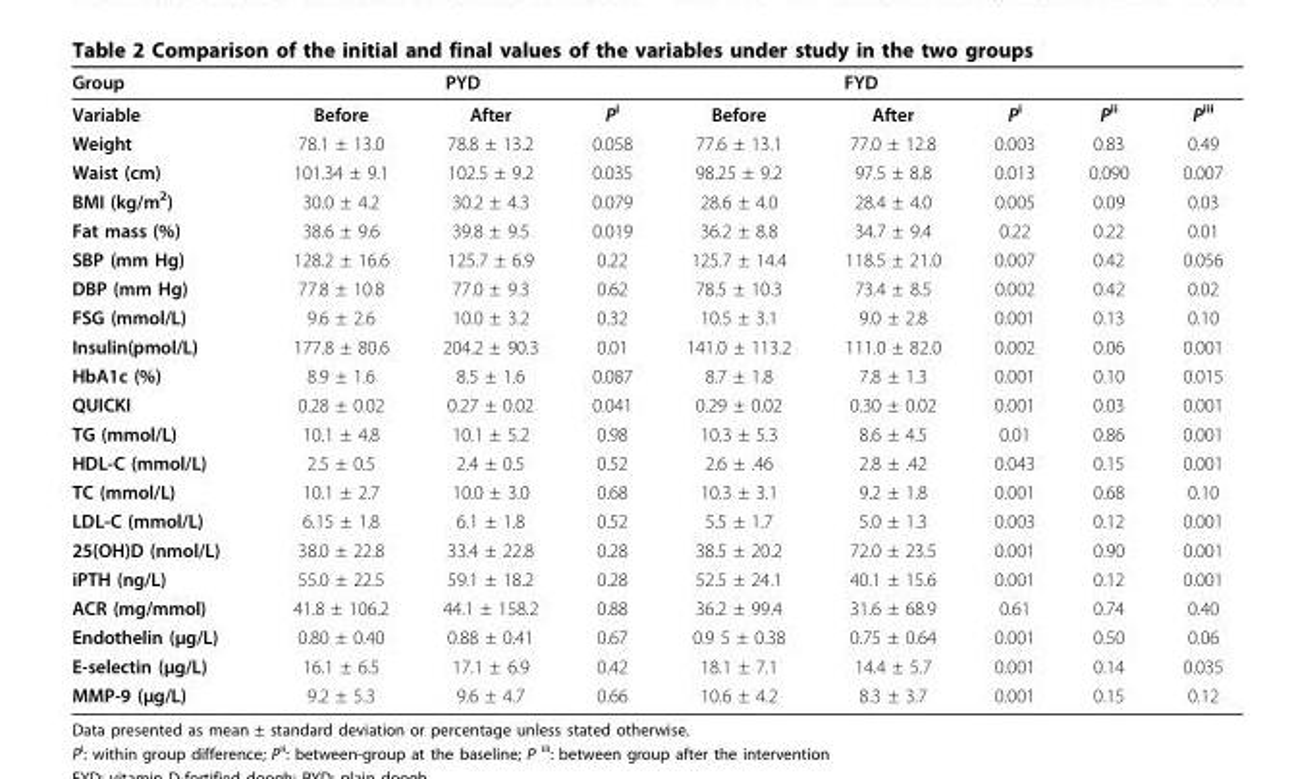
<table><thead><tr><td rowspan="2">Group Variable</td><td colspan="3">PYD</td><td colspan="3">FYD</td><td rowspan="2">P<sup>ii</sup></td><td rowspan="2">P<sup>iii</sup></td></tr><tr><td>Before</td><td>After</td><td>P<sup>i</sup></td><td>Before</td><td>After</td><td>P<sup>i</sup></td></tr></thead><tbody><tr><td>Weight</td><td>78.1 ± 13.0</td><td>78.8 ± 13.2</td><td>0.058</td><td>77.6 ± 13.1</td><td>77.0 ± 12.8</td><td>0.003</td><td>0.83</td><td>0.49</td></tr><tr><td>Waist (cm)</td><td>101.34 ± 9.1</td><td>102.5 ± 9.2</td><td>0.035</td><td>98.25 ± 9.2</td><td>97.5 ± 8.8</td><td>0.013</td><td>0.090</td><td>0.007</td></tr><tr><td>BMI (kg/m<sup>2</sup>)</td><td>30.0 ± 4.2</td><td>30.2 ± 4.3</td><td>0.079</td><td>28.6 ± 4.0</td><td>28.4 ± 4.0</td><td>0.005</td><td>0.09</td><td>0.03</td></tr><tr><td>Fat mass (%)</td><td>38.6 ± 9.6</td><td>39.8 ± 9.5</td><td>0.019</td><td>36.2 ± 8.8</td><td>34.7 ± 9.4</td><td>0.22</td><td>0.22</td><td>0.01</td></tr><tr><td>SBP (mm Hg)</td><td>128.2 ± 16.6</td><td>125.7 ± 6.9</td><td>0.22</td><td>125.7 ± 14.4</td><td>118.5 ± 21.0</td><td>0.007</td><td>0.42</td><td>0.056</td></tr><tr><td>DBP (mm Hg)</td><td>77.8 ± 10.8</td><td>77.0 ± 9.3</td><td>0.62</td><td>78.5 ± 10.3</td><td>73.4 ± 8.5</td><td>0.002</td><td>0.42</td><td>0.02</td></tr><tr><td>FSG (mmol/L)</td><td>9.6 ± 2.6</td><td>10.0 ± 3.2</td><td>0.32</td><td>10.5 ± 3.1</td><td>9.0 ± 2.8</td><td>0.001</td><td>0.13</td><td>0.10</td></tr><tr><td>Insulin(pmol/L)</td><td>177.8 ± 80.6</td><td>204.2 ± 90.3</td><td>0.01</td><td>141.0 ± 113.2</td><td>111.0 ± 82.0</td><td>0.002</td><td>0.06</td><td>0.001</td></tr><tr><td>HbA1c (%)</td><td>8.9 ± 1.6</td><td>8.5 ± 1.6</td><td>0.087</td><td>8.7 ± 1.8</td><td>7.8 ± 1.3</td><td>0.001</td><td>0.10</td><td>0.015</td></tr><tr><td>QUICKI</td><td>0.28 ± 0.02</td><td>0.27 ± 0.02</td><td>0.041</td><td>0.29 ± 0.02</td><td>0.30 ± 0.02</td><td>0.001</td><td>0.03</td><td>0.001</td></tr><tr><td>TG (mmol/L)</td><td>10.1 ± 4.8</td><td>10.1 ± 5.2</td><td>0.98</td><td>10.3 ± 5.3</td><td>8.6 ± 4.5</td><td>0.01</td><td>0.86</td><td>0.001</td></tr><tr><td>HDL-C (mmol/L)</td><td>2.5 ± 0.5</td><td>2.4 ± 0.5</td><td>0.52</td><td>2.6 ± .46</td><td>2.8 ± .42</td><td>0.043</td><td>0.15</td><td>0.001</td></tr><tr><td>TC (mmol/L)</td><td>10.1 ± 2.7</td><td>10.0 ± 3.0</td><td>0.68</td><td>10.3 ± 3.1</td><td>9.2 ± 1.8</td><td>0.001</td><td>0.68</td><td>0.10</td></tr><tr><td>LDL-C (mmol/L)</td><td>6.15 ± 1.8</td><td>6.1 ± 1.8</td><td>0.52</td><td>5.5 ± 1.7</td><td>5.0 ± 1.3</td><td>0.003</td><td>0.12</td><td>0.001</td></tr><tr><td>25(OH)D (nmol/L)</td><td>38.0 ± 22.8</td><td>33.4 ± 22.8</td><td>0.28</td><td>38.5 ± 20.2</td><td>72.0 ± 23.5</td><td>0.001</td><td>0.90</td><td>0.001</td></tr><tr><td>iPTH (ng/L)</td><td>55.0 ± 22.5</td><td>59.1 ± 18.2</td><td>0.28</td><td>52.5 ± 24.1</td><td>40.1 ± 15.6</td><td>0.001</td><td>0.12</td><td>0.001</td></tr><tr><td>ACR (mg/mmol)</td><td>41.8 ± 106.2</td><td>44.1 ± 158.2</td><td>0.88</td><td>36.2 ± 99.4</td><td>31.6 ± 68.9</td><td>0.61</td><td>0.74</td><td>0.40</td></tr><tr><td>Endothelin (μg/L)</td><td>0.80 ± 0.40</td><td>0.88 ± 0.41</td><td>0.67</td><td>0.9 5 ± 0.38</td><td>0.75 ± 0.64</td><td>0.001</td><td>0.50</td><td>0.06</td></tr><tr><td>E-selectin (μg/L)</td><td>16.1 ± 6.5</td><td>17.1 ± 6.9</td><td>0.42</td><td>18.1 ± 7.1</td><td>14.4 ± 5.7</td><td>0.001</td><td>0.14</td><td>0.035</td></tr><tr><td>MMP-9 (μg/L)</td><td>9.2 ± 5.3</td><td>9.6 ± 4.7</td><td>0.66</td><td>10.6 ± 4.2</td><td>8.3 ± 3.7</td><td>0.001</td><td>0.15</td><td>0.12</td></tr></tbody></table>